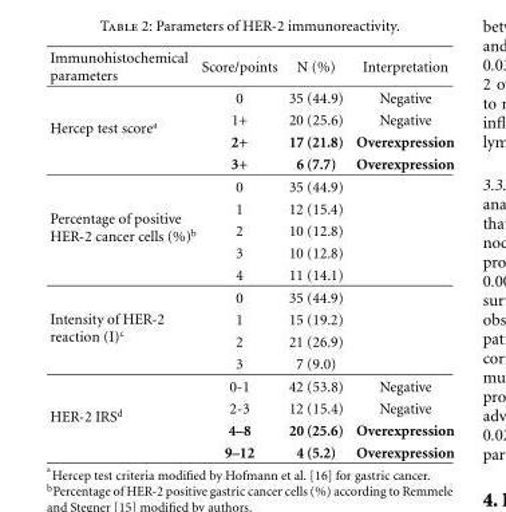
<table><thead><tr><td>Immunohistochemical parameters</td><td>Score/points</td><td>N (%)</td><td>Interpretation</td></tr></thead><tbody><tr><td rowspan="4">Hercep test score<sup>a</sup></td><td>0</td><td>35 (44.9)</td><td>Negative</td></tr><tr><td>1+</td><td>20 (25.6)</td><td>Negative</td></tr><tr><td>2+</td><td>17 (21.8)</td><td>Overexpression</td></tr><tr><td>3+</td><td>6 (7.7)</td><td>Overexpression</td></tr><tr><td rowspan="5">Percentage of positive HER-2 cancer cells (%)<sup>b</sup></td><td>0</td><td>35 (44.9)</td><td></td></tr><tr><td>1</td><td>12 (15.4)</td><td></td></tr><tr><td>2</td><td>10 (12.8)</td><td></td></tr><tr><td>3</td><td>10 (12.8)</td><td></td></tr><tr><td>4</td><td>11 (14.1)</td><td></td></tr><tr><td rowspan="4">Intensity of HER-2 reaction (I)<sup>c</sup></td><td>0</td><td>35 (44.9)</td><td></td></tr><tr><td>1</td><td>15 (19.2)</td><td></td></tr><tr><td>2</td><td>21 (26.9)</td><td></td></tr><tr><td>3</td><td>7 (9.0)</td><td></td></tr><tr><td rowspan="4">HER-2 IRS<sup>d</sup></td><td>0-1</td><td>42 (53.8)</td><td>Negative</td></tr><tr><td>2-3</td><td>12 (15.4)</td><td>Negative</td></tr><tr><td>4–8</td><td>20 (25.6)</td><td>Overexpression</td></tr><tr><td>9–12</td><td>4 (5.2)</td><td>Overexpression</td></tr></tbody></table>